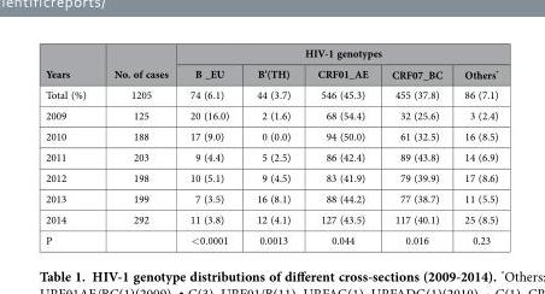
<table><thead><tr><td rowspan="2">Years</td><td rowspan="2">No. of cases</td><td colspan="5">HIV-1 genotypes</td></tr><tr><td>B _EU</td><td>B’(TH)</td><td>CRF01_AE</td><td>CRF07_BC</td><td>Others*</td></tr></thead><tbody><tr><td>Total (%)</td><td>1205</td><td>74 (6.1)</td><td>44 (3.7)</td><td>546 (45.3)</td><td>455 (37.8)</td><td>86 (7.1)</td></tr><tr><td>2009</td><td>125</td><td>20 (16.0)</td><td>2 (1.6)</td><td>68 (54.4)</td><td>32 (25.6)</td><td>3 (2.4)</td></tr><tr><td>2010</td><td>188</td><td>17 (9.0)</td><td>0 (0.0)</td><td>94 (50.0)</td><td>61 (32.5)</td><td>16 (8.5)</td></tr><tr><td>2011</td><td>203</td><td>9 (4.4)</td><td>5 (2.5)</td><td>86 (42.4)</td><td>89 (43.8)</td><td>14 (6.9)</td></tr><tr><td>2012</td><td>198</td><td>10 (5.1)</td><td>9 (4.5)</td><td>83 (41.9)</td><td>79 (39.9)</td><td>17 (8.6)</td></tr><tr><td>2013</td><td>199</td><td>7 (3.5)</td><td>16 (8.1)</td><td>88 (44.2)</td><td>77 (38.7)</td><td>11 (5.5)</td></tr><tr><td>2014</td><td>292</td><td>11 (3.8)</td><td>12 (4.1)</td><td>127 (43.5)</td><td>117 (40.1)</td><td>25 (8.5)</td></tr><tr><td>P</td><td></td><td>&lt; 0.0001</td><td>0.0013</td><td>0.044</td><td>0.016</td><td>0.23</td></tr></tbody></table>